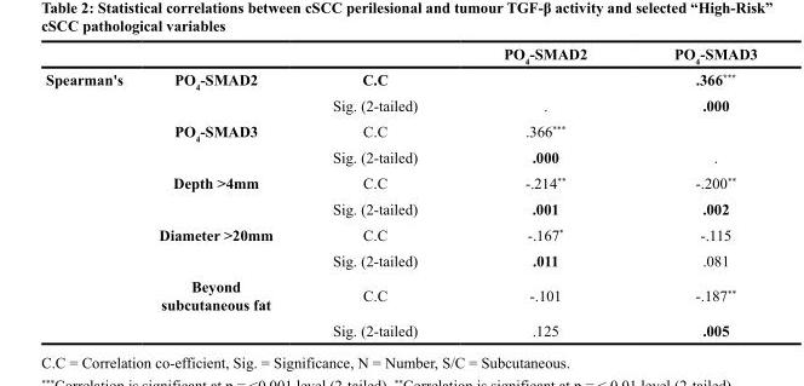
<table><thead><tr><td></td><td></td><td></td><td>PO<sub>4</sub>-SMAD2</td><td>PO<sub>4</sub>-SMAD3</td></tr></thead><tbody><tr><td rowspan="10">Spearman&#x27;s</td><td>PO<sub>4</sub>-SMAD2</td><td>C.C</td><td></td><td>.366***</td></tr><tr><td></td><td>Sig. (2-tailed)</td><td>.</td><td>.000</td></tr><tr><td>PO<sub>4</sub>-SMAD3</td><td>C.C</td><td>.366***</td><td></td></tr><tr><td></td><td>Sig. (2-tailed)</td><td>.000</td><td>.</td></tr><tr><td>Depth &gt;4mm</td><td>C.C</td><td>-.214**</td><td>-.200**</td></tr><tr><td></td><td>Sig. (2-tailed)</td><td>.001</td><td>.002</td></tr><tr><td>Diameter &gt;20mm</td><td>C.C</td><td>-.167*</td><td>-.115</td></tr><tr><td></td><td>Sig. (2-tailed)</td><td>.011</td><td>.081</td></tr><tr><td>Beyond subcutaneous fat</td><td>C.C</td><td>-.101</td><td>-.187**</td></tr><tr><td></td><td>Sig. (2-tailed)</td><td>.125</td><td>.005</td></tr></tbody></table>